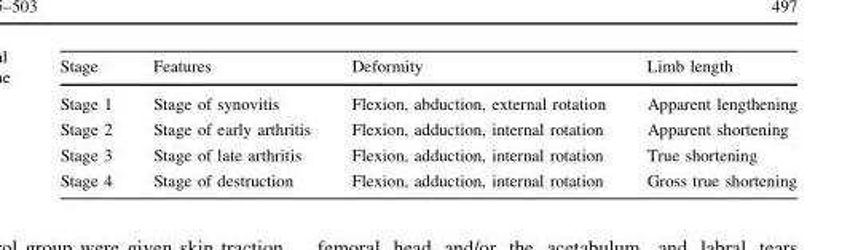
<table><thead><tr><td>Stage</td><td>Features</td><td>Deformity</td><td>Limb length</td></tr></thead><tbody><tr><td>Stage 1</td><td>Stage of synovitis</td><td>Flexion, abduction, external rotation</td><td>Apparent lengthening</td></tr><tr><td>Stage 2</td><td>Stage of early arthritis</td><td>Flexion, adduction, internal rotation</td><td>Apparent shortening</td></tr><tr><td>Stage 3</td><td>Stage of late arthritis</td><td>Flexion, adduction, internal rotation</td><td>True shortening</td></tr><tr><td>Stage 4</td><td>Stage of destruction</td><td>Flexion, adduction, internal rotation</td><td>Gross true shortening</td></tr></tbody></table>